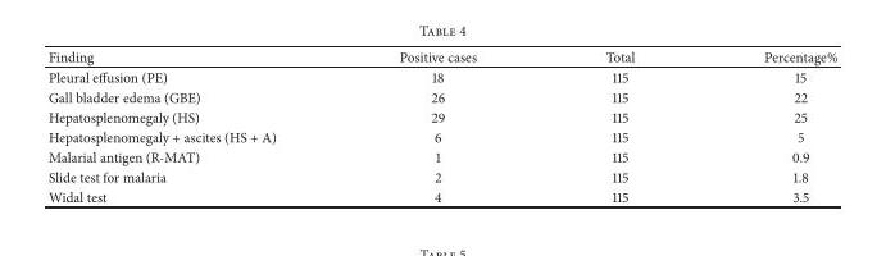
<table><thead><tr><td>Finding</td><td>Positive cases</td><td>Total</td><td>Percentage%</td></tr></thead><tbody><tr><td>Pleural effusion (PE)</td><td>18</td><td>115</td><td>15</td></tr><tr><td>Gall bladder edema (GBE)</td><td>26</td><td>115</td><td>22</td></tr><tr><td>Hepatosplenomegaly (HS)</td><td>29</td><td>115</td><td>25</td></tr><tr><td>Hepatosplenomegaly + ascites (HS + A)</td><td>6</td><td>115</td><td>5</td></tr><tr><td>Malarial antigen (R-MAT)</td><td>1</td><td>115</td><td>0.9</td></tr><tr><td>Slide test for malaria</td><td>2</td><td>115</td><td>1.8</td></tr><tr><td>Widal test</td><td>4</td><td>115</td><td>3.5</td></tr></tbody></table>